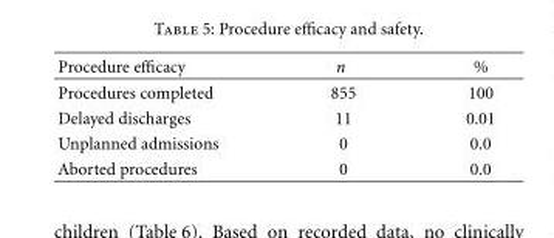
<table><thead><tr><td>Procedure efficacy</td><td>n</td><td>%</td></tr></thead><tbody><tr><td>Procedures completed</td><td>855</td><td>100</td></tr><tr><td>Delayed discharges</td><td>11</td><td>0.01</td></tr><tr><td>Unplanned admissions</td><td>0</td><td>0.0</td></tr><tr><td>Aborted procedures</td><td>0</td><td>0.0</td></tr></tbody></table>